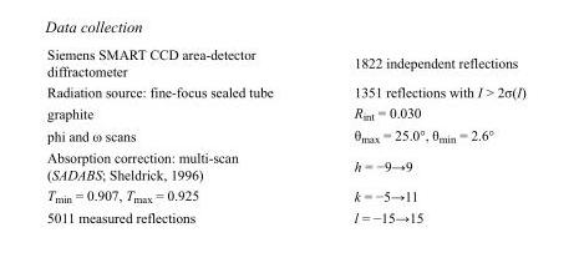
<table><tbody><tr><td>Siemens SMART CCD area-detector diffractometer</td><td>1822 independent reflections</td></tr><tr><td>Radiation source: fine-focus sealed tube</td><td>1351 reflections with I &gt; 2σ(I)</td></tr><tr><td>graphite</td><td>R<sub>int</sub> = 0.030</td></tr><tr><td>phi and ω scans</td><td>θ<sub>max</sub> = 25.0°, θ<sub>min</sub> = 2.6°</td></tr><tr><td>Absorption correction: multi-scan (SADABS; Sheldrick, 1996)</td><td>h = −9→9</td></tr><tr><td>T<sub>min</sub> = 0.907, T<sub>max</sub> = 0.925</td><td>k = −5→11</td></tr><tr><td>5011 measured reflections</td><td>l = −15→15</td></tr></tbody></table>